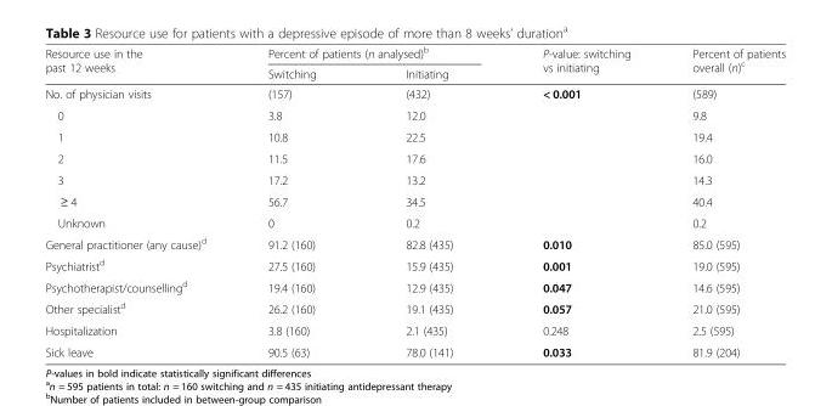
<table><thead><tr><td rowspan="2">Resource use in the past 12 weeks</td><td colspan="2">Percent of patients (n analysed)<sup>b</sup></td><td rowspan="2">P-value: switching vs initiating</td><td rowspan="2">Percent of patients overall (n)<sup>c</sup></td></tr><tr><td>Switching</td><td>Initiating</td></tr></thead><tbody><tr><td>No. of physician visits</td><td>(157)</td><td>(432)</td><td>&lt; 0.001</td><td>(589)</td></tr><tr><td>0</td><td>3.8</td><td>12.0</td><td></td><td>9.8</td></tr><tr><td>1</td><td>10.8</td><td>22.5</td><td></td><td>19.4</td></tr><tr><td>2</td><td>11.5</td><td>17.6</td><td></td><td>16.0</td></tr><tr><td>3</td><td>17.2</td><td>13.2</td><td></td><td>14.3</td></tr><tr><td>≥ 4</td><td>56.7</td><td>34.5</td><td></td><td>40.4</td></tr><tr><td>Unknown</td><td>0</td><td>0.2</td><td></td><td>0.2</td></tr><tr><td>General practitioner (any cause)<sup>d</sup></td><td>91.2 (160)</td><td>82.8 (435)</td><td>0.010</td><td>85.0 (595)</td></tr><tr><td>Psychiatrist<sup>d</sup></td><td>27.5 (160)</td><td>15.9 (435)</td><td>0.001</td><td>19.0 (595)</td></tr><tr><td>Psychotherapist/counselling<sup>d</sup></td><td>19.4 (160)</td><td>12.9 (435)</td><td>0.047</td><td>14.6 (595)</td></tr><tr><td>Other specialist<sup>d</sup></td><td>26.2 (160)</td><td>19.1 (435)</td><td>0.057</td><td>21.0 (595)</td></tr><tr><td>Hospitalization</td><td>3.8 (160)</td><td>2.1 (435)</td><td>0.248</td><td>2.5 (595)</td></tr><tr><td>Sick leave</td><td>90.5 (63)</td><td>78.0 (141)</td><td>0.033</td><td>81.9 (204)</td></tr></tbody></table>